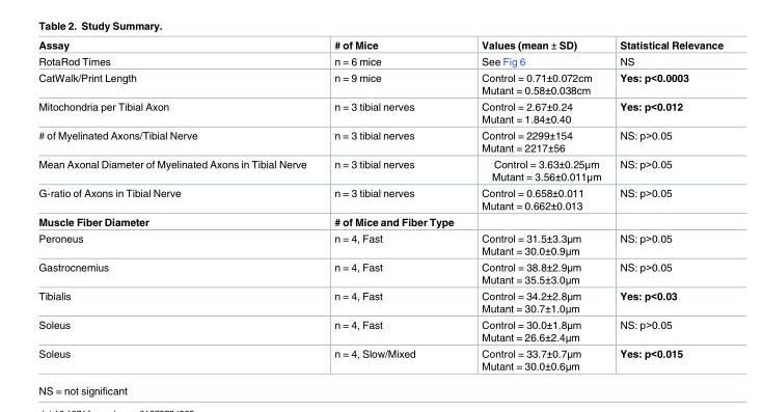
<table><tbody><tr><td>Assay</td><td># of Mice</td><td>Values (mean ± SD)</td><td>Statistical Relevance</td></tr><tr><td>RotaRod Times</td><td>n = 6 mice</td><td>See Fig 6</td><td>NS</td></tr><tr><td>CatWalk/Print Length</td><td>n = 9 mice</td><td>Control = 0.71±0.072cm Mutant = 0.58±0.038cm</td><td>Yes: p&lt;0.0003</td></tr><tr><td>Mitochondria per Tibial Axon</td><td>n = 3 tibial nerves</td><td>Control = 2.67±0.24 Mutant = 1.84±0.40</td><td>Yes: p&lt;0.012</td></tr><tr><td># of Myelinated Axons/Tibial Nerve</td><td>n = 3 tibial nerves</td><td>Control = 2299±154 Mutant = 2217±56</td><td>NS: p&gt;0.05</td></tr><tr><td>Mean Axonal Diameter of Myelinated Axons in Tibial Nerve</td><td>n = 3 tibial nerves</td><td>Control = 3.63±0.25μm Mutant = 3.56±0.011μm</td><td>NS: p&gt;0.05</td></tr><tr><td>G-ratio of Axons in Tibial Nerve</td><td>n = 3 tibial nerves</td><td>Control = 0.658±0.011 Mutant = 0.662±0.013</td><td>NS: p&gt;0.05</td></tr><tr><td>Muscle Fiber Diameter</td><td># of Mice and Fiber Type</td><td></td><td></td></tr><tr><td>Peroneus</td><td>n = 4, Fast</td><td>Control = 31.5±3.3μm Mutant = 30.0±0.9μm</td><td>NS: p&gt;0.05</td></tr><tr><td>Gastrocnemius</td><td>n = 4, Fast</td><td>Control = 38.8±2.9μm Mutant = 35.5±3.0μm</td><td>NS: p&gt;0.05</td></tr><tr><td>Tibialis</td><td>n = 4, Fast</td><td>Control = 34.2±2.8μm Mutant = 30.7±1.0μm</td><td>Yes: p&lt;0.03</td></tr><tr><td>Soleus</td><td>n = 4, Fast</td><td>Control = 30.0±1.8μm Mutant = 26.6±2.4μm</td><td>NS: p&gt;0.05</td></tr><tr><td>Soleus</td><td>n = 4, Slow/Mixed</td><td>Control = 33.7±0.7μm Mutant = 30.0±0.6μm</td><td>Yes: p&lt;0.015</td></tr></tbody></table>